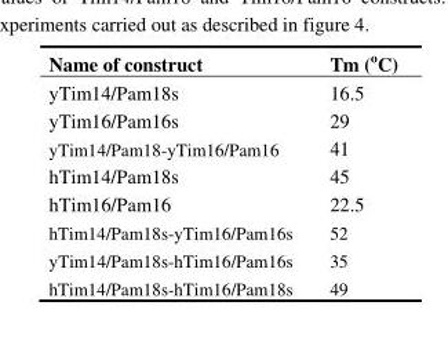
<table><thead><tr><td>Name of construct</td><td>Tm (°C)</td></tr></thead><tbody><tr><td>yTim14/Pam18s</td><td>16.5</td></tr><tr><td>yTim16/Pam16s</td><td>29</td></tr><tr><td>yTim14/Pam18-yTim16/Pam16</td><td>41</td></tr><tr><td>hTim14/Pam18s</td><td>45</td></tr><tr><td>hTim16/Pam16</td><td>22.5</td></tr><tr><td>hTim14/Pam18s-yTim16/Pam16s</td><td>52</td></tr><tr><td>yTim14/Pam18s-hTim16/Pam16s</td><td>35</td></tr><tr><td>hTim14/Pam18s-hTim16/Pam18s</td><td>49</td></tr></tbody></table>